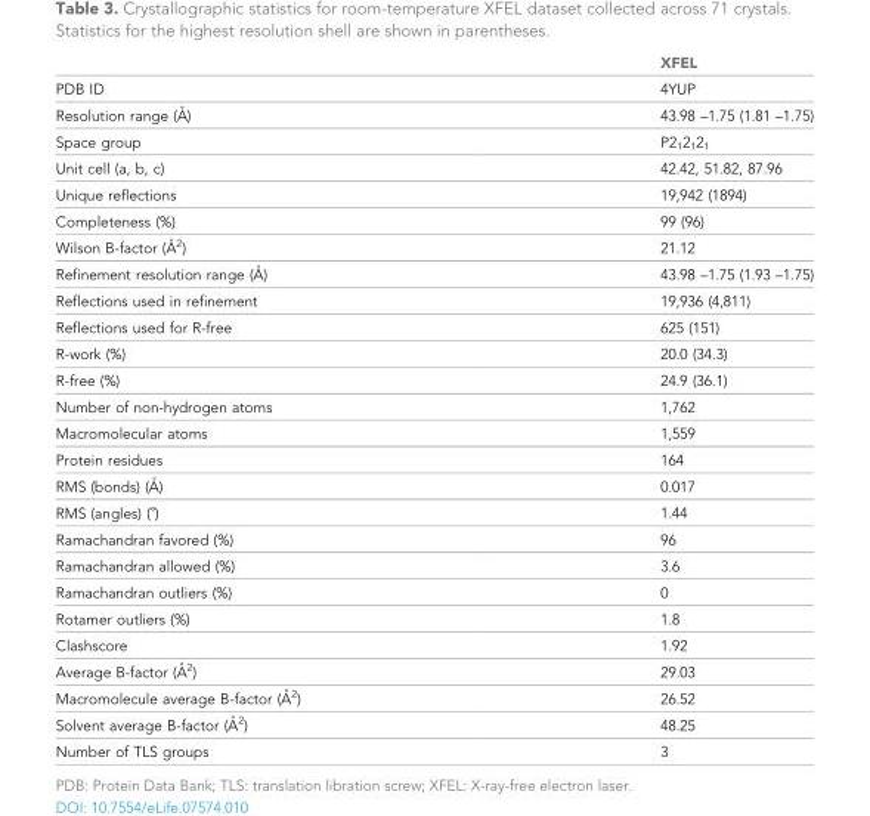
<table><thead><tr><td></td><td>XFEL</td></tr></thead><tbody><tr><td>PDB ID</td><td>4YUP</td></tr><tr><td>Resolution range (A˚ )</td><td>43.98 –1.75 (1.81 –1.75)</td></tr><tr><td>Space group</td><td>P2<sub>1</sub>2<sub>1</sub>2<sub>1</sub></td></tr><tr><td>Unit cell (a, b, c)</td><td>42.42, 51.82, 87.96</td></tr><tr><td>Unique reflections</td><td>19,942 (1894)</td></tr><tr><td>Completeness (%)</td><td>99 (96)</td></tr><tr><td>Wilson B-factor (A˚ 2)</td><td>21.12</td></tr><tr><td>Refinement resolution range (A˚ )</td><td>43.98 –1.75 (1.93 –1.75)</td></tr><tr><td>Reflections used in refinement</td><td>19,936 (4,811)</td></tr><tr><td>Reflections used for R-free</td><td>625 (151)</td></tr><tr><td>R-work (%)</td><td>20.0 (34.3)</td></tr><tr><td>R-free (%)</td><td>24.9 (36.1)</td></tr><tr><td>Number of non-hydrogen atoms</td><td>1,762</td></tr><tr><td>Macromolecular atoms</td><td>1,559</td></tr><tr><td>Protein residues</td><td>164</td></tr><tr><td>RMS (bonds) (A˚ )</td><td>0.017</td></tr><tr><td>RMS (angles) (˚)</td><td>1.44</td></tr><tr><td>Ramachandran favored (%)</td><td>96</td></tr><tr><td>Ramachandran allowed (%)</td><td>3.6</td></tr><tr><td>Ramachandran outliers (%)</td><td>0</td></tr><tr><td>Rotamer outliers (%)</td><td>1.8</td></tr><tr><td>Clashscore</td><td>1.92</td></tr><tr><td>Average B-factor (A˚ 2)</td><td>29.03</td></tr><tr><td>Macromolecule average B-factor (A˚ 2)</td><td>26.52</td></tr><tr><td>Solvent average B-factor (A˚ 2)</td><td>48.25</td></tr><tr><td>Number of TLS groups</td><td>3</td></tr></tbody></table>